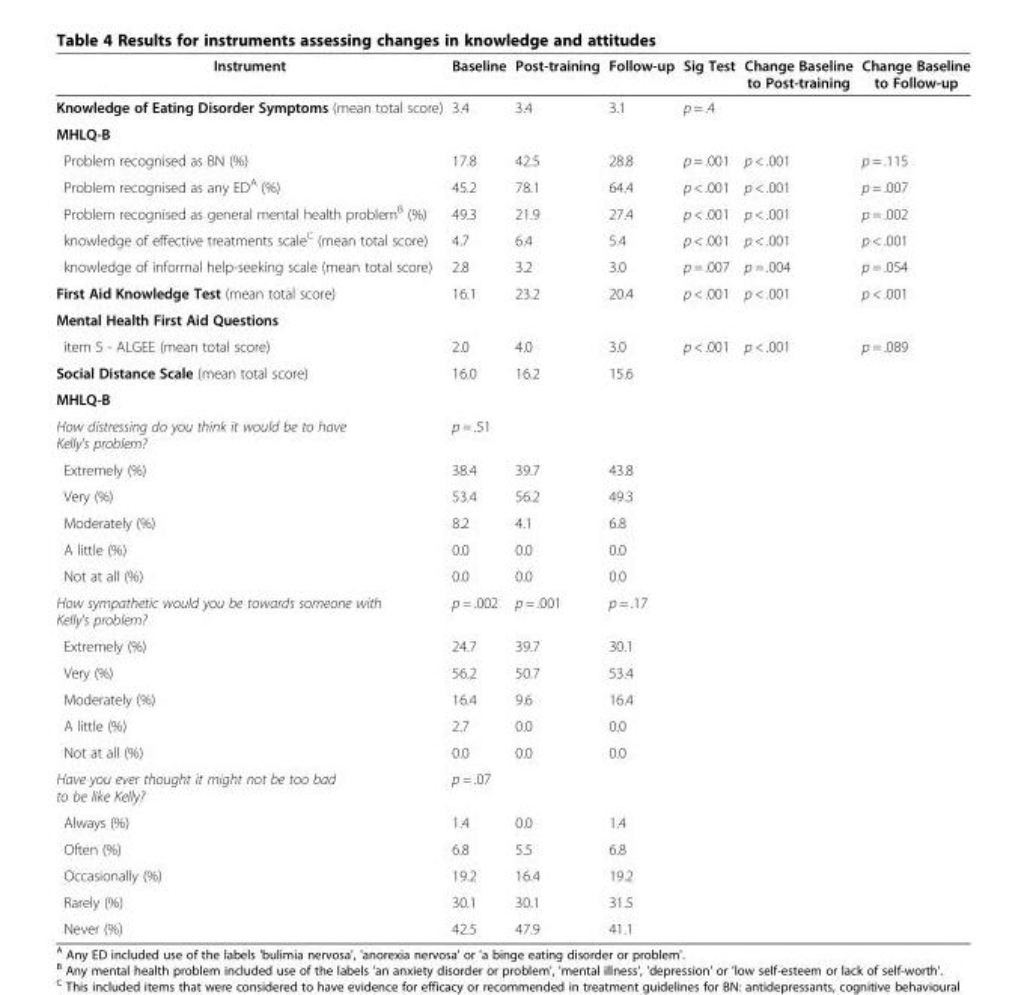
<table><thead><tr><td>Instrument</td><td>Baseline</td><td>Post-training</td><td>Follow-up</td><td>Sig Test</td><td>Change Baseline to Post-training</td><td>Change Baseline to Follow-up</td></tr></thead><tbody><tr><td>Knowledge of Eating Disorder Symptoms (mean total score)</td><td>3.4</td><td>3.4</td><td>3.1</td><td>p = .4</td><td></td><td></td></tr><tr><td colspan="7">MHLQ-B</td></tr><tr><td>Problem recognised as BN (%)</td><td>17.8</td><td>42.5</td><td>28.8</td><td>p = .001</td><td>p &lt; .001</td><td>p = .115</td></tr><tr><td>Problem recognised as any ED<sup>A</sup> (%)</td><td>45.2</td><td>78.1</td><td>64.4</td><td>p &lt; .001</td><td>p &lt; .001</td><td>p = .007</td></tr><tr><td>Problem recognised as general mental health problem<sup>B</sup> (%)</td><td>49.3</td><td>21.9</td><td>27.4</td><td>p &lt; .001</td><td>p &lt; .001</td><td>p = .002</td></tr><tr><td>knowledge of effective treatments scale<sup>C</sup> (mean total score)</td><td>4.7</td><td>6.4</td><td>5.4</td><td>p &lt; .001</td><td>p &lt; .001</td><td>p &lt; .001</td></tr><tr><td>knowledge of informal help-seeking scale (mean total score)</td><td>2.8</td><td>3.2</td><td>3.0</td><td>p = .007</td><td>p = .004</td><td>p = .054</td></tr><tr><td>First Aid Knowledge Test (mean total score)</td><td>16.1</td><td>23.2</td><td>20.4</td><td>p &lt; .001</td><td>p &lt; .001</td><td>p &lt; .001</td></tr><tr><td colspan="7">Mental Health First Aid Questions</td></tr><tr><td>item 5 - ALGEE (mean total score)</td><td>2.0</td><td>4.0</td><td>3.0</td><td>p &lt; .001</td><td>p &lt; .001</td><td>p = .089</td></tr><tr><td>Social Distance Scale (mean total score)</td><td>16.0</td><td>16.2</td><td>15.6</td><td></td><td></td><td></td></tr><tr><td colspan="7">MHLQ-B</td></tr><tr><td>How distressing do you think it would be to have Kelly&#x27;s problem?</td><td>p = .51</td><td></td><td></td><td></td><td></td><td></td></tr><tr><td>Extremely (%)</td><td>38.4</td><td>39.7</td><td>43.8</td><td></td><td></td><td></td></tr><tr><td>Very (%)</td><td>53.4</td><td>56.2</td><td>49.3</td><td></td><td></td><td></td></tr><tr><td>Moderately (%)</td><td>8.2</td><td>4.1</td><td>6.8</td><td></td><td></td><td></td></tr><tr><td>A little (%)</td><td>0.0</td><td>0.0</td><td>0.0</td><td></td><td></td><td></td></tr><tr><td>Not at all (%)</td><td>0.0</td><td>0.0</td><td>0.0</td><td></td><td></td><td></td></tr><tr><td>How sympathetic would you be towards someone with Kelly&#x27;s problem?</td><td>p = .002</td><td>p = .001</td><td>p = .17</td><td></td><td></td><td></td></tr><tr><td>Extremely (%)</td><td>24.7</td><td>39.7</td><td>30.1</td><td></td><td></td><td></td></tr><tr><td>Very (%)</td><td>56.2</td><td>50.7</td><td>53.4</td><td></td><td></td><td></td></tr><tr><td>Moderately (%)</td><td>16.4</td><td>9.6</td><td>16.4</td><td></td><td></td><td></td></tr><tr><td>A little (%)</td><td>2.7</td><td>0.0</td><td>0.0</td><td></td><td></td><td></td></tr><tr><td>Not at all (%)</td><td>0.0</td><td>0.0</td><td>0.0</td><td></td><td></td><td></td></tr><tr><td>Have you ever thought it might not be too bad to be like Kelly?</td><td>p = .07</td><td></td><td></td><td></td><td></td><td></td></tr><tr><td>Always (%)</td><td>1.4</td><td>0.0</td><td>1.4</td><td></td><td></td><td></td></tr><tr><td>Often (%)</td><td>6.8</td><td>5.5</td><td>6.8</td><td></td><td></td><td></td></tr><tr><td>Occasionally (%)</td><td>19.2</td><td>16.4</td><td>19.2</td><td></td><td></td><td></td></tr><tr><td>Rarely (%)</td><td>30.1</td><td>30.1</td><td>31.5</td><td></td><td></td><td></td></tr><tr><td>Never (%)</td><td>42.5</td><td>47.9</td><td>41.1</td><td></td><td></td><td></td></tr></tbody></table>